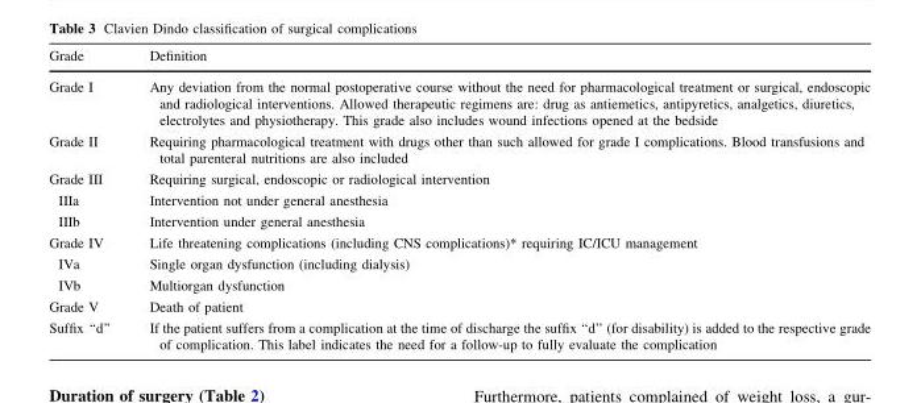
<table><thead><tr><td>Grade</td><td>Definition</td></tr></thead><tbody><tr><td>Grade I</td><td>Any deviation from the normal postoperative course without the need for pharmacological treatment or surgical, endoscopic and radiological interventions. Allowed therapeutic regimens are: drug as antiemetics, antipyretics, analgetics, diuretics, electrolytes and physiotherapy. This grade also includes wound infections opened at the bedside</td></tr><tr><td>Grade II</td><td>Requiring pharmacological treatment with drugs other than such allowed for grade I complications. Blood transfusions and total parenteral nutritions are also included</td></tr><tr><td>Grade III</td><td>Requiring surgical, endoscopic or radiological intervention</td></tr><tr><td>IIIa</td><td>Intervention not under general anesthesia</td></tr><tr><td>IIIb</td><td>Intervention under general anesthesia</td></tr><tr><td>Grade IV</td><td>Life threatening complications (including CNS complications)* requiring IC/ICU management</td></tr><tr><td>IVa</td><td>Single organ dysfunction (including dialysis)</td></tr><tr><td>IVb</td><td>Multiorgan dysfunction</td></tr><tr><td>Grade V</td><td>Death of patient</td></tr><tr><td>Suffix ‘‘d’’</td><td>If the patient suffers from a complication at the time of discharge the suffix ‘‘d’’ (for disability) is added to the respective grade of complication. This label indicates the need for a follow-up to fully evaluate the complication</td></tr></tbody></table>